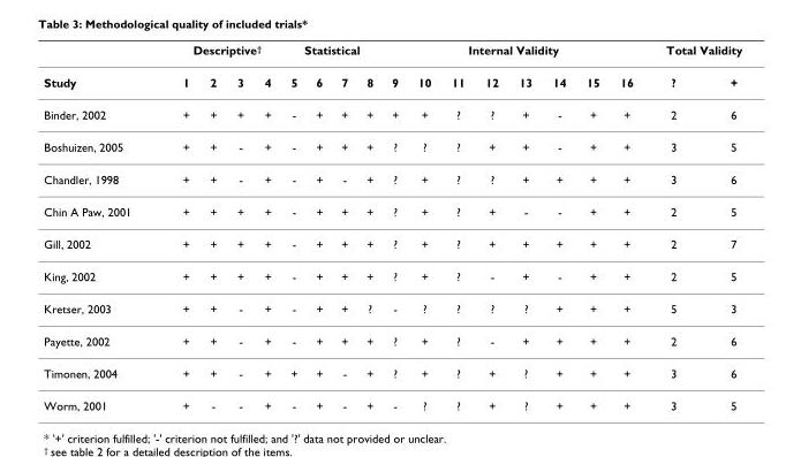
<table><thead><tr><td rowspan="2">Study</td><td colspan="4">Descriptive<sup>†</sup></td><td colspan="4">Statistical</td><td colspan="8">Internal Validity</td><td colspan="2">Total Validity</td></tr><tr><td>1</td><td>2</td><td>3</td><td>4</td><td>5</td><td>6</td><td>7</td><td>8</td><td>9</td><td>10</td><td>11</td><td>12</td><td>13</td><td>14</td><td>15</td><td>16</td><td>?</td><td>+</td></tr></thead><tbody><tr><td>Binder, 2002</td><td>+</td><td>+</td><td>+</td><td>+</td><td>-</td><td>+</td><td>+</td><td>+</td><td>+</td><td>+</td><td>?</td><td>?</td><td>+</td><td>-</td><td>+</td><td>+</td><td>2</td><td>6</td></tr><tr><td>Boshuizen, 2005</td><td>+</td><td>+</td><td>-</td><td>+</td><td>-</td><td>+</td><td>+</td><td>+</td><td>?</td><td>?</td><td>?</td><td>+</td><td>+</td><td>-</td><td>+</td><td>+</td><td>3</td><td>5</td></tr><tr><td>Chandler, 1998</td><td>+</td><td>+</td><td>-</td><td>+</td><td>-</td><td>+</td><td>-</td><td>+</td><td>?</td><td>+</td><td>?</td><td>?</td><td>+</td><td>+</td><td>+</td><td>+</td><td>3</td><td>6</td></tr><tr><td>Chin A Paw, 2001</td><td>+</td><td>+</td><td>+</td><td>+</td><td>-</td><td>+</td><td>+</td><td>+</td><td>?</td><td>+</td><td>?</td><td>+</td><td>-</td><td>-</td><td>+</td><td>+</td><td>2</td><td>5</td></tr><tr><td>Gill, 2002</td><td>+</td><td>+</td><td>+</td><td>+</td><td>-</td><td>+</td><td>+</td><td>+</td><td>?</td><td>+</td><td>?</td><td>+</td><td>+</td><td>+</td><td>+</td><td>+</td><td>2</td><td>7</td></tr><tr><td>King, 2002</td><td>+</td><td>+</td><td>+</td><td>+</td><td>-</td><td>+</td><td>+</td><td>+</td><td>?</td><td>+</td><td>?</td><td>-</td><td>+</td><td>-</td><td>+</td><td>+</td><td>2</td><td>5</td></tr><tr><td>Kretser, 2003</td><td>+</td><td>+</td><td>-</td><td>+</td><td>-</td><td>+</td><td>+</td><td>?</td><td>-</td><td>?</td><td>?</td><td>?</td><td>?</td><td>+</td><td>+</td><td>+</td><td>5</td><td>3</td></tr><tr><td>Payette, 2002</td><td>+</td><td>+</td><td>-</td><td>+</td><td>-</td><td>+</td><td>+</td><td>+</td><td>?</td><td>+</td><td>?</td><td>-</td><td>+</td><td>+</td><td>+</td><td>+</td><td>2</td><td>6</td></tr><tr><td>Timonen, 2004</td><td>+</td><td>+</td><td>-</td><td>+</td><td>+</td><td>+</td><td>-</td><td>+</td><td>?</td><td>+</td><td>?</td><td>+</td><td>?</td><td>+</td><td>+</td><td>+</td><td>3</td><td>6</td></tr><tr><td>Worm, 2001</td><td>+</td><td>-</td><td>-</td><td>+</td><td>-</td><td>+</td><td>-</td><td>+</td><td>-</td><td>?</td><td>?</td><td>+</td><td>?</td><td>+</td><td>+</td><td>+</td><td>3</td><td>5</td></tr></tbody></table>